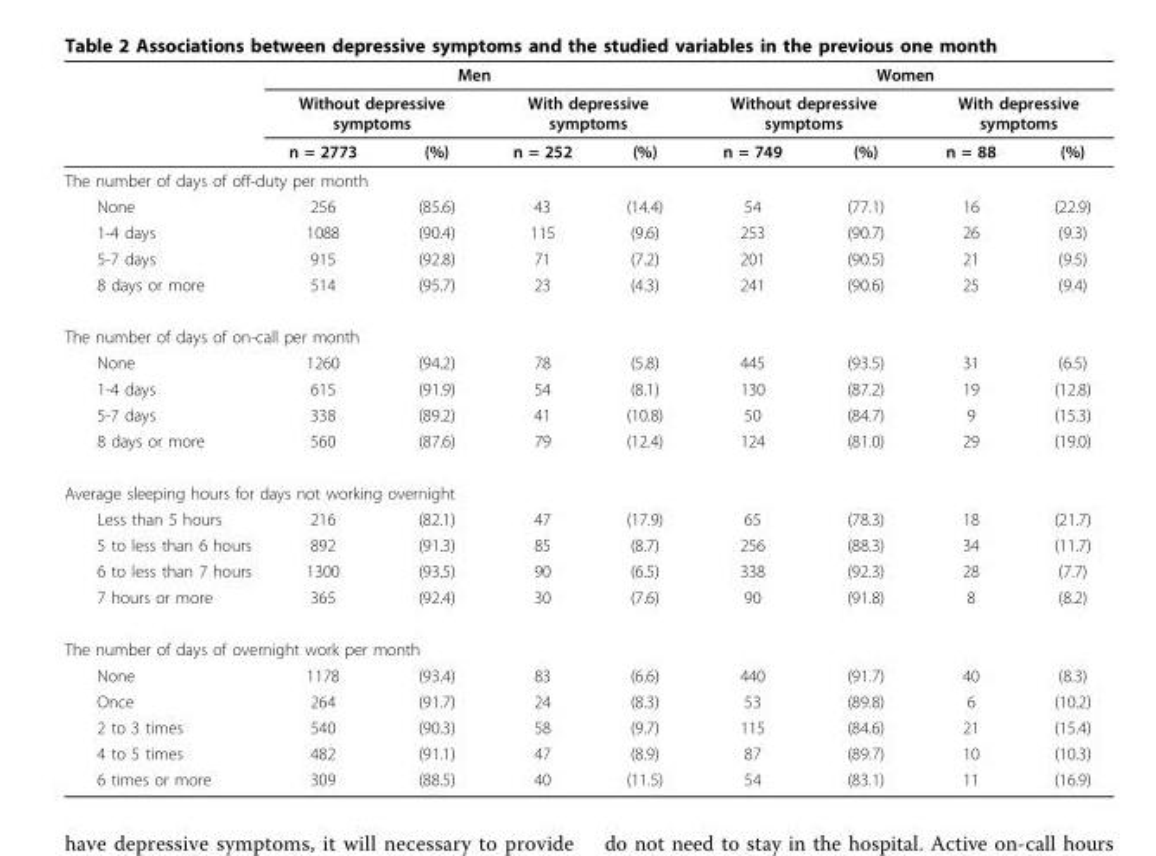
<table><thead><tr><td rowspan="3"></td><td colspan="4">Men</td><td colspan="4">Women</td></tr><tr><td colspan="2">Without depressive symptoms</td><td colspan="2">With depressive symptoms</td><td colspan="2">Without depressive symptoms</td><td colspan="2">With depressive symptoms</td></tr><tr><td>n = 2773</td><td>(%)</td><td>n = 252</td><td>(%)</td><td>n = 749</td><td>(%)</td><td>n = 88</td><td>(%)</td></tr></thead><tbody><tr><td colspan="9">The number of days of off-duty per month</td></tr><tr><td>None</td><td>256</td><td>(85.6)</td><td>43</td><td>(14.4)</td><td>54</td><td>(77.1)</td><td>16</td><td>(22.9)</td></tr><tr><td>1-4 days</td><td>1088</td><td>(90.4)</td><td>115</td><td>(9.6)</td><td>253</td><td>(90.7)</td><td>26</td><td>(9.3)</td></tr><tr><td>5-7 days</td><td>915</td><td>(92.8)</td><td>71</td><td>(7.2)</td><td>201</td><td>(90.5)</td><td>21</td><td>(9.5)</td></tr><tr><td>8 days or more</td><td>514</td><td>(95.7)</td><td>23</td><td>(4.3)</td><td>241</td><td>(90.6)</td><td>25</td><td>(9.4)</td></tr><tr><td colspan="9">The number of days of on-call per month</td></tr><tr><td>None</td><td>1260</td><td>(94.2)</td><td>78</td><td>(5.8)</td><td>445</td><td>(93.5)</td><td>31</td><td>(6.5)</td></tr><tr><td>1-4 days</td><td>615</td><td>(91.9)</td><td>54</td><td>(8.1)</td><td>130</td><td>(87.2)</td><td>19</td><td>(12.8)</td></tr><tr><td>5-7 days</td><td>338</td><td>(89.2)</td><td>41</td><td>(10.8)</td><td>50</td><td>(84.7)</td><td>9</td><td>(15.3)</td></tr><tr><td>8 days or more</td><td>560</td><td>(87.6)</td><td>79</td><td>(12.4)</td><td>124</td><td>(81.0)</td><td>29</td><td>(19.0)</td></tr><tr><td colspan="9">Average sleeping hours for days not working overnight</td></tr><tr><td>Less than 5 hours</td><td>216</td><td>(82.1)</td><td>47</td><td>(17.9)</td><td>65</td><td>(78.3)</td><td>18</td><td>(21.7)</td></tr><tr><td>5 to less than 6 hours</td><td>892</td><td>(91.3)</td><td>85</td><td>(8.7)</td><td>256</td><td>(88.3)</td><td>34</td><td>(11.7)</td></tr><tr><td>6 to less than 7 hours</td><td>1300</td><td>(93.5)</td><td>90</td><td>(6.5)</td><td>338</td><td>(92.3)</td><td>28</td><td>(7.7)</td></tr><tr><td>7 hours or more</td><td>365</td><td>(92.4)</td><td>30</td><td>(7.6)</td><td>90</td><td>(91.8)</td><td>8</td><td>(8.2)</td></tr><tr><td colspan="9">The number of days of overnight work per month</td></tr><tr><td>None</td><td>1178</td><td>(93.4)</td><td>83</td><td>(6.6)</td><td>440</td><td>(91.7)</td><td>40</td><td>(8.3)</td></tr><tr><td>Once</td><td>264</td><td>(91.7)</td><td>24</td><td>(8.3)</td><td>53</td><td>(89.8)</td><td>6</td><td>(10.2)</td></tr><tr><td>2 to 3 times</td><td>540</td><td>(90.3)</td><td>58</td><td>(9.7)</td><td>115</td><td>(84.6)</td><td>21</td><td>(15.4)</td></tr><tr><td>4 to 5 times</td><td>482</td><td>(91.1)</td><td>47</td><td>(8.9)</td><td>87</td><td>(89.7)</td><td>10</td><td>(10.3)</td></tr><tr><td>6 times or more</td><td>309</td><td>(88.5)</td><td>40</td><td>(11.5)</td><td>54</td><td>(83.1)</td><td>11</td><td>(16.9)</td></tr></tbody></table>